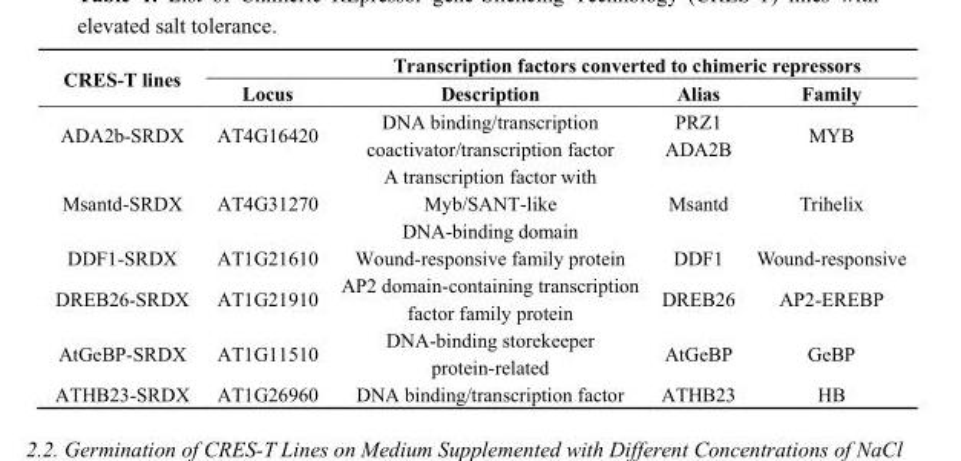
<table><thead><tr><td rowspan="2">CRES-T lines</td><td colspan="4">Transcription factors converted to chimeric repressors</td></tr><tr><td>Locus</td><td>Description</td><td>Alias</td><td>Family</td></tr></thead><tbody><tr><td>ADA2b-SRDX</td><td>AT4G16420</td><td>DNA binding/transcription coactivator/transcription factor</td><td>PRZ1 ADA2B</td><td>MYB</td></tr><tr><td>Msantd-SRDX</td><td>AT4G31270</td><td>A transcription factor with Myb/SANT-like DNA-binding domain</td><td>Msantd</td><td>Trihelix</td></tr><tr><td>DDF1-SRDX</td><td>AT1G21610</td><td>Wound-responsive family protein</td><td>DDF1</td><td>Wound-responsive</td></tr><tr><td>DREB26-SRDX</td><td>AT1G21910</td><td>AP2 domain-containing transcription factor family protein</td><td>DREB26</td><td>AP2-EREBP</td></tr><tr><td>AtGeBP-SRDX</td><td>AT1G11510</td><td>DNA-binding storekeeper protein-related</td><td>AtGeBP</td><td>GeBP</td></tr><tr><td>ATHB23-SRDX</td><td>AT1G26960</td><td>DNA binding/transcription factor</td><td>ATHB23</td><td>HB</td></tr></tbody></table>